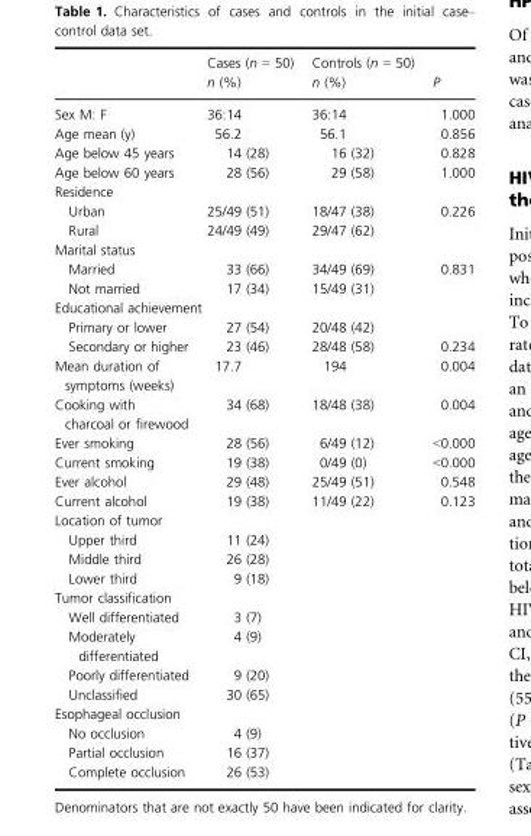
<table><thead><tr><td></td><td>Cases (n = 50) n (%)</td><td>Controls (n = 50) n (%)</td><td>P</td></tr></thead><tbody><tr><td>Sex M: F</td><td>36:14</td><td>36:14</td><td>1.000</td></tr><tr><td>Age mean (y)</td><td>56.2</td><td>56.1</td><td>0.856</td></tr><tr><td>Age below 45 years</td><td>14 (28)</td><td>16 (32)</td><td>0.828</td></tr><tr><td>Age below 60 years</td><td>28 (56)</td><td>29 (58)</td><td>1.000</td></tr><tr><td colspan="4">Residence</td></tr><tr><td>Urban</td><td>25/49 (51)</td><td>18/47 (38)</td><td>0.226</td></tr><tr><td>Rural</td><td>24/49 (49)</td><td>29/47 (62)</td><td></td></tr><tr><td colspan="4">Marital status</td></tr><tr><td>Married</td><td>33 (66)</td><td>34/49 (69)</td><td>0.831</td></tr><tr><td>Not married</td><td>17 (34)</td><td>15/49 (31)</td><td></td></tr><tr><td colspan="4">Educational achievement</td></tr><tr><td>Primary or lower</td><td>27 (54)</td><td>20/48 (42)</td><td></td></tr><tr><td>Secondary or higher</td><td>23 (46)</td><td>28/48 (58)</td><td>0.234</td></tr><tr><td>Mean duration of symptoms (weeks)</td><td>17.7</td><td>194</td><td>0.004</td></tr><tr><td>Cooking with charcoal or firewood</td><td>34 (68)</td><td>18/48 (38)</td><td>0.004</td></tr><tr><td>Ever smoking</td><td>28 (56)</td><td>6/49 (12)</td><td>&lt;0.000</td></tr><tr><td>Current smoking</td><td>19 (38)</td><td>0/49 (0)</td><td>&lt;0.000</td></tr><tr><td>Ever alcohol</td><td>29 (48)</td><td>25/49 (51)</td><td>0.548</td></tr><tr><td>Current alcohol</td><td>19 (38)</td><td>11/49 (22)</td><td>0.123</td></tr><tr><td colspan="4">Location of tumor</td></tr><tr><td>Upper third</td><td>11 (24)</td><td></td><td></td></tr><tr><td>Middle third</td><td>26 (28)</td><td></td><td></td></tr><tr><td>Lower third</td><td>9 (18)</td><td></td><td></td></tr><tr><td colspan="4">Tumor classification</td></tr><tr><td>Well differentiated</td><td>3 (7)</td><td></td><td></td></tr><tr><td>Moderately differentiated</td><td>4 (9)</td><td></td><td></td></tr><tr><td>Poorly differentiated</td><td>9 (20)</td><td></td><td></td></tr><tr><td>Unclassified</td><td>30 (65)</td><td></td><td></td></tr><tr><td colspan="4">Esophageal occlusion</td></tr><tr><td>No occlusion</td><td>4 (9)</td><td></td><td></td></tr><tr><td>Partial occlusion</td><td>16 (37)</td><td></td><td></td></tr><tr><td>Complete occlusion</td><td>26 (53)</td><td></td><td></td></tr></tbody></table>